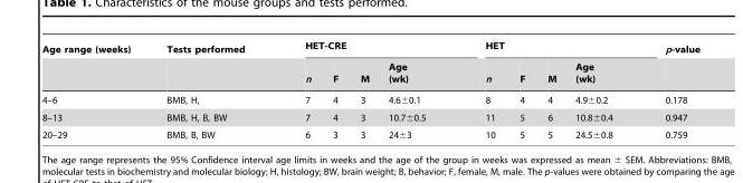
<table><thead><tr><td rowspan="2">Age range (weeks)</td><td rowspan="2">Tests performed</td><td colspan="4">HET-CRE</td><td colspan="4">HET</td><td rowspan="2">p-value</td></tr><tr><td>n</td><td>F</td><td>M</td><td>Age (wk)</td><td>n</td><td>F</td><td>M</td><td>Age (wk)</td></tr></thead><tbody><tr><td>4–6</td><td>BMB, H,</td><td>7</td><td>4</td><td>3</td><td>4.6±0.1</td><td>8</td><td>4</td><td>4</td><td>4.9±0.2</td><td>0.178</td></tr><tr><td>8–13</td><td>BMB, H, B, BW</td><td>7</td><td>4</td><td>3</td><td>10.7±0.5</td><td>11</td><td>5</td><td>6</td><td>10.8±0.4</td><td>0.947</td></tr><tr><td>20–29</td><td>BMB, B, BW</td><td>6</td><td>3</td><td>3</td><td>24±3</td><td>10</td><td>5</td><td>5</td><td>24.5±0.8</td><td>0.759</td></tr></tbody></table>